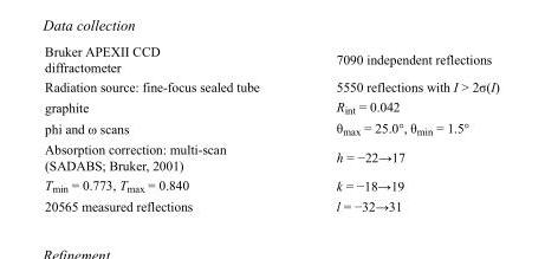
<table><tbody><tr><td>Bruker APEXII CCD diffractometer</td><td>7090 independent reflections</td></tr><tr><td>Radiation source: fine-focus sealed tube</td><td>5550 reflections with I &gt; 2σ(I)</td></tr><tr><td>graphite</td><td>R<sub>int</sub> = 0.042</td></tr><tr><td>phi and ω scans</td><td>θ<sub>max</sub> = 25.0°, θ<sub>min</sub> = 1.5°</td></tr><tr><td>Absorption correction: multi-scan (SADABS; Bruker, 2001)</td><td>h = −22→17</td></tr><tr><td>T<sub>min</sub> = 0.773, T<sub>max</sub> = 0.840</td><td>k = −18→19</td></tr><tr><td>20565 measured reflections</td><td>l = −32→31</td></tr></tbody></table>